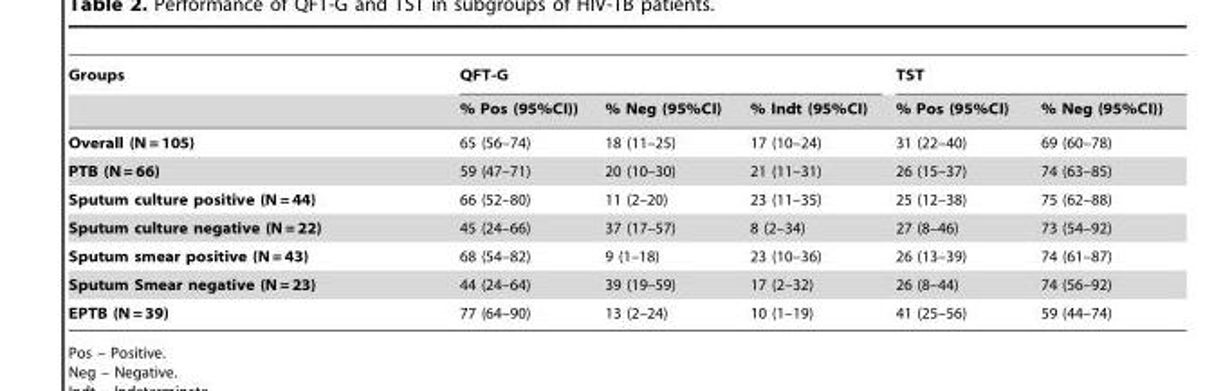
<table><thead><tr><td rowspan="2">Groups</td><td colspan="3">QFT-G</td><td colspan="2">TST</td></tr><tr><td>% Pos (95%CI))</td><td>% Neg (95%CI)</td><td>% Indt (95%CI)</td><td>% Pos (95%CI)</td><td>% Neg (95%CI))</td></tr></thead><tbody><tr><td>Overall (N = 105)</td><td>65 (56–74)</td><td>18 (11–25)</td><td>17 (10–24)</td><td>31 (22–40)</td><td>69 (60–78)</td></tr><tr><td>PTB (N = 66)</td><td>59 (47–71)</td><td>20 (10–30)</td><td>21 (11–31)</td><td>26 (15–37)</td><td>74 (63–85)</td></tr><tr><td>Sputum culture positive (N = 44)</td><td>66 (52–80)</td><td>11 (2–20)</td><td>23 (11–35)</td><td>25 (12–38)</td><td>75 (62–88)</td></tr><tr><td>Sputum culture negative (N = 22)</td><td>45 (24–66)</td><td>37 (17–57)</td><td>8 (2–34)</td><td>27 (8–46)</td><td>73 (54–92)</td></tr><tr><td>Sputum smear positive (N = 43)</td><td>68 (54–82)</td><td>9 (1–18)</td><td>23 (10–36)</td><td>26 (13–39)</td><td>74 (61–87)</td></tr><tr><td>Sputum Smear negative (N = 23)</td><td>44 (24–64)</td><td>39 (19–59)</td><td>17 (2–32)</td><td>26 (8–44)</td><td>74 (56–92)</td></tr><tr><td>EPTB (N = 39)</td><td>77 (64–90)</td><td>13 (2–24)</td><td>10 (1–19)</td><td>41 (25–56)</td><td>59 (44–74)</td></tr></tbody></table>